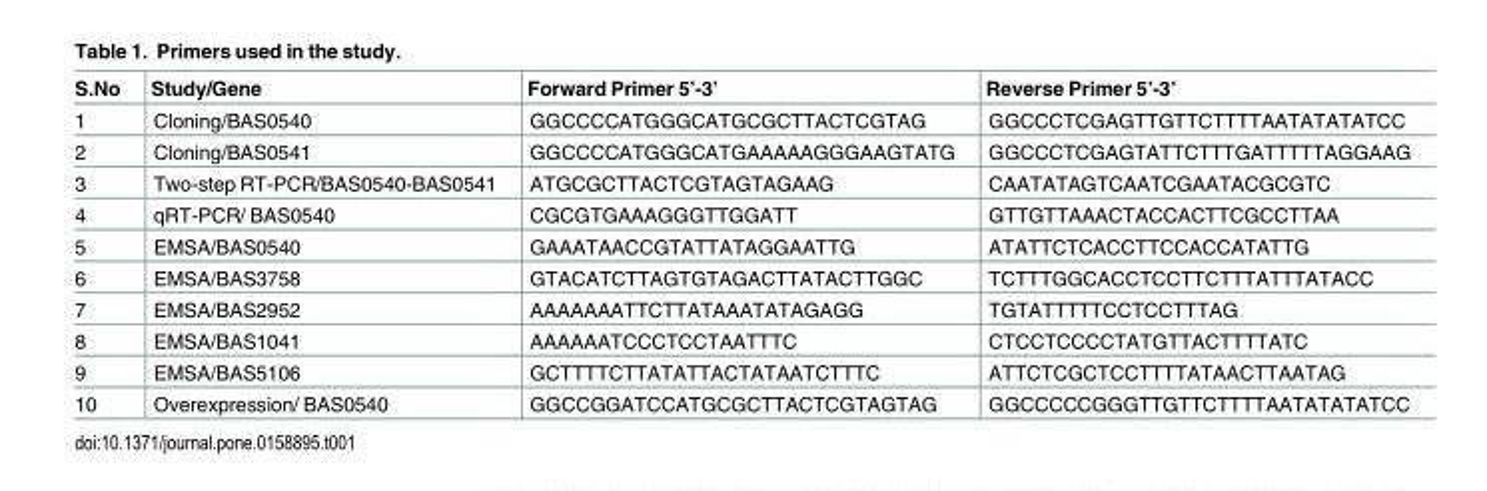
<table><thead><tr><td>S.No</td><td>Study/Gene</td><td>Forward Primer 5’-3’</td><td>Reverse Primer 5’-3’</td></tr></thead><tbody><tr><td>1</td><td>Cloning/BAS0540</td><td>GGCCCCATGGGCATGCGCTTACTCGTAG</td><td>GGCCCTCGAGTTGTTCTTTTAATATATATCC</td></tr><tr><td>2</td><td>Cloning/BAS0541</td><td>GGCCCCATGGGCATGAAAAAGGGAAGTATG</td><td>GGCCCTCGAGTATTCTTTGATTTTTAGGAAG</td></tr><tr><td>3</td><td>Two-step RT-PCR/BAS0540-BAS0541</td><td>ATGCGCTTACTCGTAGTAGAAG</td><td>CAATATAGTCAATCGAATACGCGTC</td></tr><tr><td>4</td><td>qRT-PCR/ BAS0540</td><td>CGCGTGAAAGGGTTGGATT</td><td>GTTGTTAAACTACCACTTCGCCTTAA</td></tr><tr><td>5</td><td>EMSA/BAS0540</td><td>GAAATAACCGTATTATAGGAATTG</td><td>ATATTCTCACCTTCCACCATATTG</td></tr><tr><td>6</td><td>EMSA/BAS3758</td><td>GTACATCTTAGTGTAGACTTATACTTGGC</td><td>TCTTTGGCACCTCCTTCTTTATTTATACC</td></tr><tr><td>7</td><td>EMSA/BAS2952</td><td>AAAAAAATTCTTATAAATATAGAGG</td><td>TGTATTTTTCCTCCTTTAG</td></tr><tr><td>8</td><td>EMSA/BAS1041</td><td>AAAAAATCCCTCCTAATTTC</td><td>CTCCTCCCCTATGTTACTTTTATC</td></tr><tr><td>9</td><td>EMSA/BAS5106</td><td>GCTTTTCTTATATTACTATAATCTTTC</td><td>ATTCTCGCTCCTTTTATAACTTAATAG</td></tr><tr><td>10</td><td>Overexpression/ BAS0540</td><td>GGCCGGATCCATGCGCTTACTCGTAGTAG</td><td>GGCCCCCGGGTTGTTCTTTTAATATATATCC</td></tr></tbody></table>